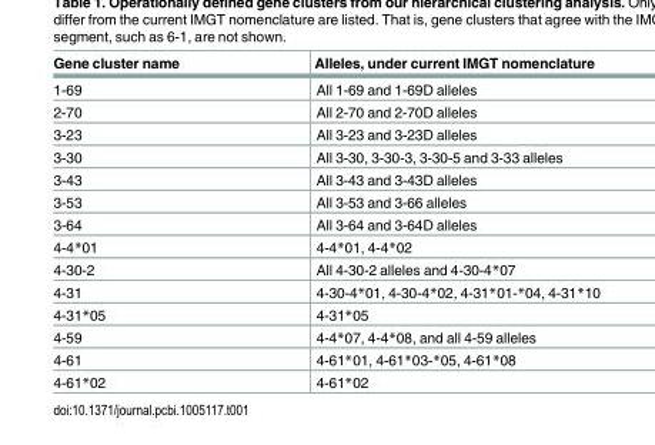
<table><thead><tr><td>Gene cluster name</td><td>Alleles, under current IMGT nomenclature</td></tr></thead><tbody><tr><td>1-69</td><td>All 1-69 and 1-69D alleles</td></tr><tr><td>2-70</td><td>All 2-70 and 2-70D alleles</td></tr><tr><td>3-23</td><td>All 3-23 and 3-23D alleles</td></tr><tr><td>3-30</td><td>All 3-30, 3-30-3, 3-30-5 and 3-33 alleles</td></tr><tr><td>3-43</td><td>All 3-43 and 3-43D alleles</td></tr><tr><td>3-53</td><td>All 3-53 and 3-66 alleles</td></tr><tr><td>3-64</td><td>All 3-64 and 3-64D alleles</td></tr><tr><td>4-4*01</td><td>4-4*01, 4-4*02</td></tr><tr><td>4-30-2</td><td>All 4-30-2 alleles and 4-30-4*07</td></tr><tr><td>4-31</td><td>4-30-4*01, 4-30-4*02, 4-31*01-*04, 4-31*10</td></tr><tr><td>4-31*05</td><td>4-31*05</td></tr><tr><td>4-59</td><td>4-4*07, 4-4*08, and all 4-59 alleles</td></tr><tr><td>4-61</td><td>4-61*01, 4-61*03-*05, 4-61*08</td></tr><tr><td>4-61*02</td><td>4-61*02</td></tr></tbody></table>